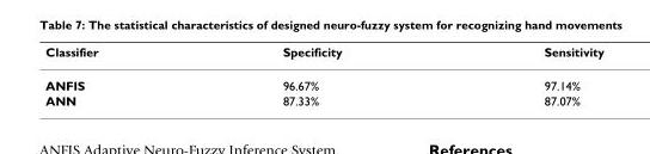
<table><thead><tr><td>Classifier</td><td>Specificity</td><td>Sensitivity</td></tr></thead><tbody><tr><td>ANFIS</td><td>96.67%</td><td>97.14%</td></tr><tr><td>ANN</td><td>87.33%</td><td>87.07%</td></tr></tbody></table>